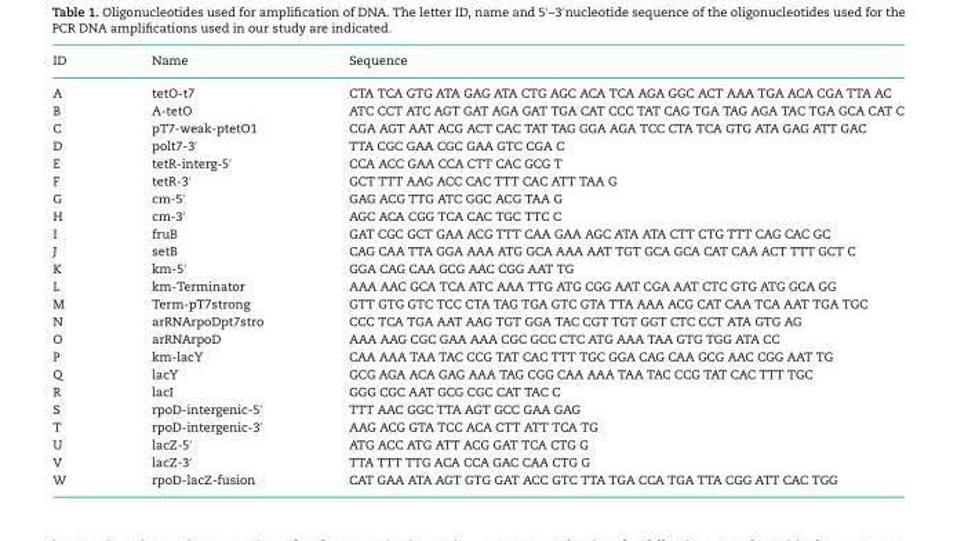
<table><thead><tr><td>ID</td><td>Name</td><td>Sequence</td></tr></thead><tbody><tr><td>A</td><td>tetO-t7</td><td>CTA TCA GTG ATA GAG ATA CTG AGC ACA TCA AGA GGC ACT AAA TGA ACA CGA TTA AC</td></tr><tr><td>B</td><td>A-tetO</td><td>ATC CCT ATC AGT GAT AGA GAT TGA CAT CCC TAT CAG TGA TAG AGA TAC TGA GCA CAT C</td></tr><tr><td>C</td><td>pT7-weak-ptetO1</td><td>CGA AGT AAT ACG ACT CAC TAT TAG GGA AGA TCC CTA TCA GTG ATA GAG ATT GAC</td></tr><tr><td>D</td><td>polt7-3′</td><td>TTA CGC GAA CGC GAA GTC CGA C</td></tr><tr><td>E</td><td>tetR-interg-5′</td><td>CCA ACC GAA CCA CTT CAC GCG T</td></tr><tr><td>F</td><td>tetR-3′</td><td>GCT TTT AAG ACC CAC TTT CAC ATT TAA G</td></tr><tr><td>G</td><td>cm-5′</td><td>GAG ACG TTG ATC GGC ACG TAA G</td></tr><tr><td>H</td><td>cm-3′</td><td>AGC ACA CGG TCA CAC TGC TTC C</td></tr><tr><td>I</td><td>fruB</td><td>GAT CGC GCT GAA ACG TTT CAA GAA AGC ATA ATA CTT CTG TTT CAG CAC GC</td></tr><tr><td>J</td><td>setB</td><td>CAG CAA TTA GGA AAA ATG GCA AAA AAT TGT GCA GCA CAT CAA ACT TTT GCT C</td></tr><tr><td>K</td><td>km-5′</td><td>GGA CAG CAA GCG AAC CGG AAT TG</td></tr><tr><td>L</td><td>km-Terminator</td><td>AAA AAC GCA TCA ATC AAA TTG ATG CGG AAT CGA AAT CTC GTG ATG GCA GG</td></tr><tr><td>M</td><td>Term-pT7strong</td><td>GTT GTG GTC TCC CTA TAG TGA GTC GTA TTA AAA ACG CAT CAA TCA AAT TGA TGC</td></tr><tr><td>N</td><td>arRNArpoDpt7stro</td><td>CCC TCA TGA AAT AAG TGT GGA TAC CGT TGT GGT CTC CCT ATA GTG AG</td></tr><tr><td>O</td><td>arRNArpoD</td><td>AAA AAG CGC GAA AAA CGC GCC CTC ATG AAA TAA GTG TGG ATA CC</td></tr><tr><td>P</td><td>km-lacY</td><td>CAA AAA TAA TAC CCG TAT CAC TTT TGC GGA CAG CAA GCG AAC CGG AAT TG</td></tr><tr><td>Q</td><td>lacY</td><td>GCG AGA ACA GAG AAA TAG CGG CAA AAA TAA TAC CCG TAT CAC TTT TGC</td></tr><tr><td>R</td><td>lacI</td><td>GGG CGC AAT GCG CGC CAT TAC C</td></tr><tr><td>S</td><td>rpoD-intergenic-5′</td><td>TTT AAC GGC TTA AGT GCC GAA GAG</td></tr><tr><td>T</td><td>rpoD-intergenic-3′</td><td>AAG ACG GTA TCC ACA CTT ATT TCA TG</td></tr><tr><td>U</td><td>lacZ-5′</td><td>ATG ACC ATG ATT ACG GAT TCA CTG G</td></tr><tr><td>V</td><td>lacZ-3′</td><td>TTA TTT TTG ACA CCA GAC CAA CTG G</td></tr><tr><td>W</td><td>rpoD-lacZ-fusion</td><td>CAT GAA ATA AGT GTG GAT ACC GTC TTA TGA CCA TGA TTA CGG ATT CAC TGG</td></tr></tbody></table>